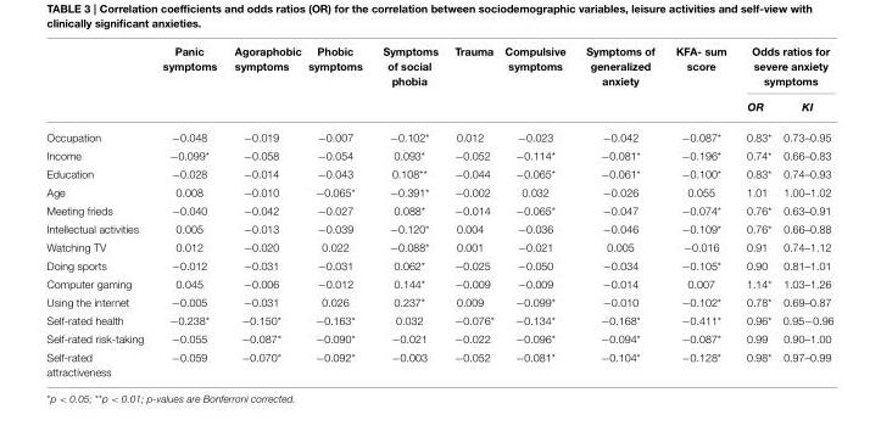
<table><thead><tr><td rowspan="2"></td><td rowspan="2">Panic symptoms</td><td rowspan="2">Agoraphobic symptoms</td><td rowspan="2">Phobic symptoms</td><td rowspan="2">Symptoms of social phobia</td><td rowspan="2">Trauma</td><td rowspan="2">Compulsive symptoms</td><td rowspan="2">Symptoms of generalized anxiety</td><td rowspan="2">KFA- sum score</td><td colspan="2">Odds ratios for severe anxiety symptoms</td></tr><tr><td>OR</td><td>KI</td></tr></thead><tbody><tr><td>Occupation</td><td>−0.048</td><td>−0.019</td><td>−0.007</td><td>−0.102*</td><td>0.012</td><td>−0.023</td><td>−0.042</td><td>−0.087*</td><td>0.83*</td><td>0.73–0.95</td></tr><tr><td>Income</td><td>−0.099*</td><td>−0.058</td><td>−0.054</td><td>0.093*</td><td>−0.052</td><td>−0.114*</td><td>−0.081*</td><td>−0.196*</td><td>0.74*</td><td>0.66–0.83</td></tr><tr><td>Education</td><td>−0.028</td><td>−0.014</td><td>−0.043</td><td>0.108**</td><td>−0.044</td><td>−0.065*</td><td>−0.061*</td><td>−0.100*</td><td>0.83*</td><td>0.74–0.93</td></tr><tr><td>Age</td><td>0.008</td><td>−0.010</td><td>−0.065*</td><td>−0.391*</td><td>−0.002</td><td>0.032</td><td>−0.026</td><td>0.055</td><td>1.01</td><td>1.00–1.02</td></tr><tr><td>Meeting frieds</td><td>−0.040</td><td>−0.042</td><td>−0.027</td><td>0.088*</td><td>−0.014</td><td>−0.065*</td><td>−0.047</td><td>−0.074*</td><td>0.76*</td><td>0.63–0.91</td></tr><tr><td>Intellectual activities</td><td>0.005</td><td>−0.013</td><td>−0.039</td><td>−0.120*</td><td>0.004</td><td>−0.036</td><td>−0.046</td><td>−0.109*</td><td>0.76*</td><td>0.66–0.88</td></tr><tr><td>Watching TV</td><td>0.012</td><td>−0.020</td><td>0.022</td><td>−0.088*</td><td>0.001</td><td>−0.021</td><td>0.005</td><td>−0.016</td><td>0.91</td><td>0.74–1.12</td></tr><tr><td>Doing sports</td><td>−0.012</td><td>−0.031</td><td>−0.031</td><td>0.062*</td><td>−0.025</td><td>−0.050</td><td>−0.034</td><td>−0.105*</td><td>0.90</td><td>0.81–1.01</td></tr><tr><td>Computer gaming</td><td>0.045</td><td>−0.006</td><td>−0.012</td><td>0.144*</td><td>−0.009</td><td>−0.009</td><td>−0.014</td><td>0.007</td><td>1.14*</td><td>1.03–1.26</td></tr><tr><td>Using the internet</td><td>−0.005</td><td>−0.031</td><td>0.026</td><td>0.237*</td><td>0.009</td><td>−0.099*</td><td>−0.010</td><td>−0.102*</td><td>0.78*</td><td>0.69–0.87</td></tr><tr><td>Self-rated health</td><td>−0.238*</td><td>−0.150*</td><td>−0.163*</td><td>0.032</td><td>−0.076*</td><td>−0.134*</td><td>−0.168*</td><td>−0.411*</td><td>0.96*</td><td>0.95−0.96</td></tr><tr><td>Self-rated risk-taking</td><td>−0.055</td><td>−0.087*</td><td>−0.090*</td><td>−0.021</td><td>−0.022</td><td>−0.096*</td><td>−0.094*</td><td>−0.087*</td><td>0.99</td><td>0.90–1.00</td></tr><tr><td>Self-rated attractiveness</td><td>−0.059</td><td>−0.070*</td><td>−0.092*</td><td>−0.003</td><td>−0.052</td><td>−0.081*</td><td>−0.104*</td><td>−0.128*</td><td>0.98*</td><td>0.97–0.99</td></tr></tbody></table>